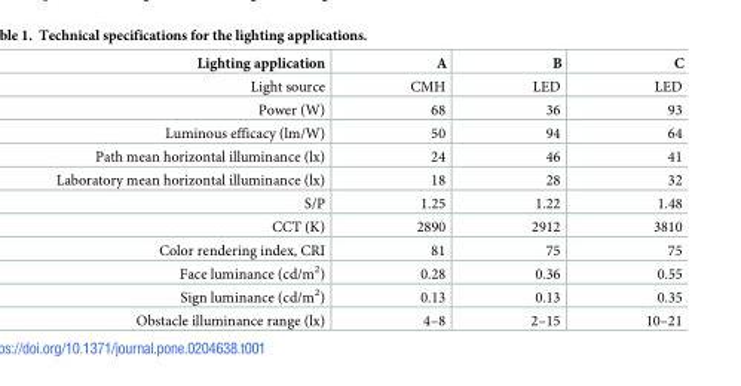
<table><thead><tr><td>Lighting application</td><td>A</td><td>B</td><td>C</td></tr></thead><tbody><tr><td>Light source</td><td>CMH</td><td>LED</td><td>LED</td></tr><tr><td>Power (W)</td><td>68</td><td>36</td><td>93</td></tr><tr><td>Luminous efficacy (lm/W)</td><td>50</td><td>94</td><td>64</td></tr><tr><td>Path mean horizontal illuminance (lx)</td><td>24</td><td>46</td><td>41</td></tr><tr><td>Laboratory mean horizontal illuminance (lx)</td><td>18</td><td>28</td><td>32</td></tr><tr><td>S/P</td><td>1.25</td><td>1.22</td><td>1.48</td></tr><tr><td>CCT (K)</td><td>2890</td><td>2912</td><td>3810</td></tr><tr><td>Color rendering index, CRI</td><td>81</td><td>75</td><td>75</td></tr><tr><td>Face luminance (cd/m<sup>2</sup>)</td><td>0.28</td><td>0.36</td><td>0.55</td></tr><tr><td>Sign luminance (cd/m<sup>2</sup>)</td><td>0.13</td><td>0.13</td><td>0.35</td></tr><tr><td>Obstacle illuminance range (lx)</td><td>4–8</td><td>2–15</td><td>10–21</td></tr></tbody></table>